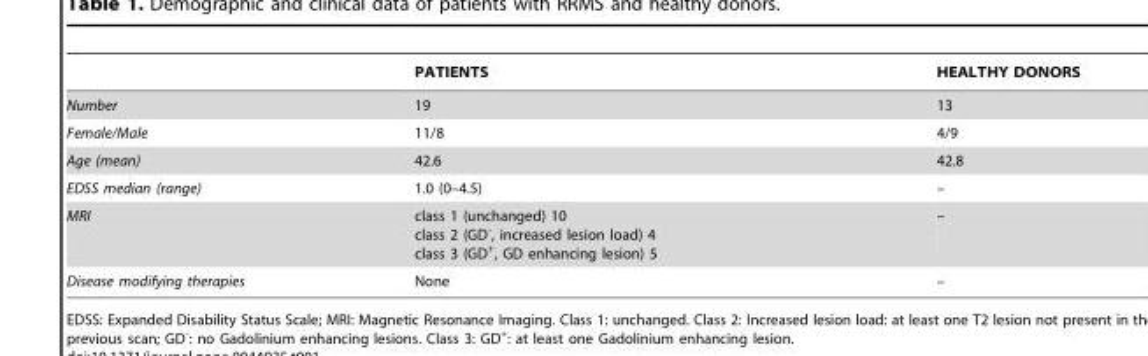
<table><thead><tr><td></td><td>PATIENTS</td><td>HEALTHY DONORS</td></tr></thead><tbody><tr><td>Number</td><td>19</td><td>13</td></tr><tr><td>Female/Male</td><td>11/8</td><td>4/9</td></tr><tr><td>Age (mean)</td><td>42.6</td><td>42.8</td></tr><tr><td>EDSS median (range)</td><td>1.0 (0–4.5)</td><td>–</td></tr><tr><td>MRI</td><td>class 1 (unchanged) 10 class 2 (GD<sup>-</sup>, increased lesion load) 4 class 3 (GD<sup>+</sup>, GD enhancing lesion) 5</td><td>–</td></tr><tr><td>Disease modifying therapies</td><td>None</td><td>–</td></tr></tbody></table>